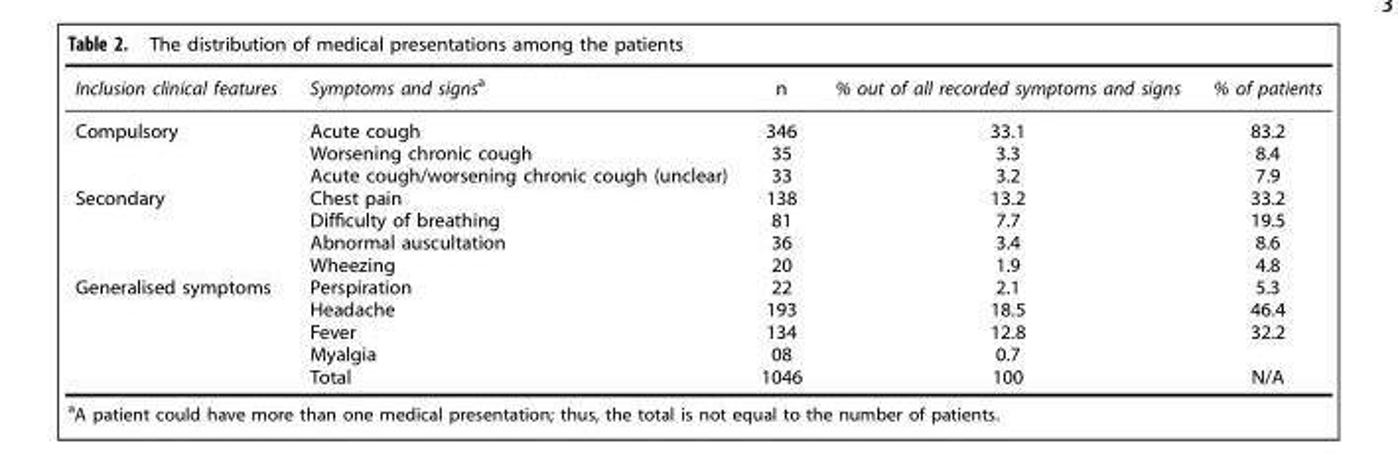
<table><thead><tr><td>Inclusion clinical features</td><td>Symptoms and signs<sup>a</sup></td><td>n</td><td>% out of all recorded symptoms and signs</td><td>% of patients</td></tr></thead><tbody><tr><td rowspan="3">Compulsory</td><td>Acute cough</td><td>346</td><td>33.1</td><td>83.2</td></tr><tr><td>Worsening chronic cough</td><td>35</td><td>3.3</td><td>8.4</td></tr><tr><td>Acute cough/worsening chronic cough (unclear)</td><td>33</td><td>3.2</td><td>7.9</td></tr><tr><td rowspan="4">Secondary</td><td>Chest pain</td><td>138</td><td>13.2</td><td>33.2</td></tr><tr><td>Difficulty of breathing</td><td>81</td><td>7.7</td><td>19.5</td></tr><tr><td>Abnormal auscultation</td><td>36</td><td>3.4</td><td>8.6</td></tr><tr><td>Wheezing</td><td>20</td><td>1.9</td><td>4.8</td></tr><tr><td rowspan="5">Generalised symptoms</td><td>Perspiration</td><td>22</td><td>2.1</td><td>5.3</td></tr><tr><td>Headache</td><td>193</td><td>18.5</td><td>46.4</td></tr><tr><td>Fever</td><td>134</td><td>12.8</td><td>32.2</td></tr><tr><td>Myalgia</td><td>08</td><td>0.7</td><td></td></tr><tr><td>Total</td><td>1046</td><td>100</td><td>N/A</td></tr></tbody></table>